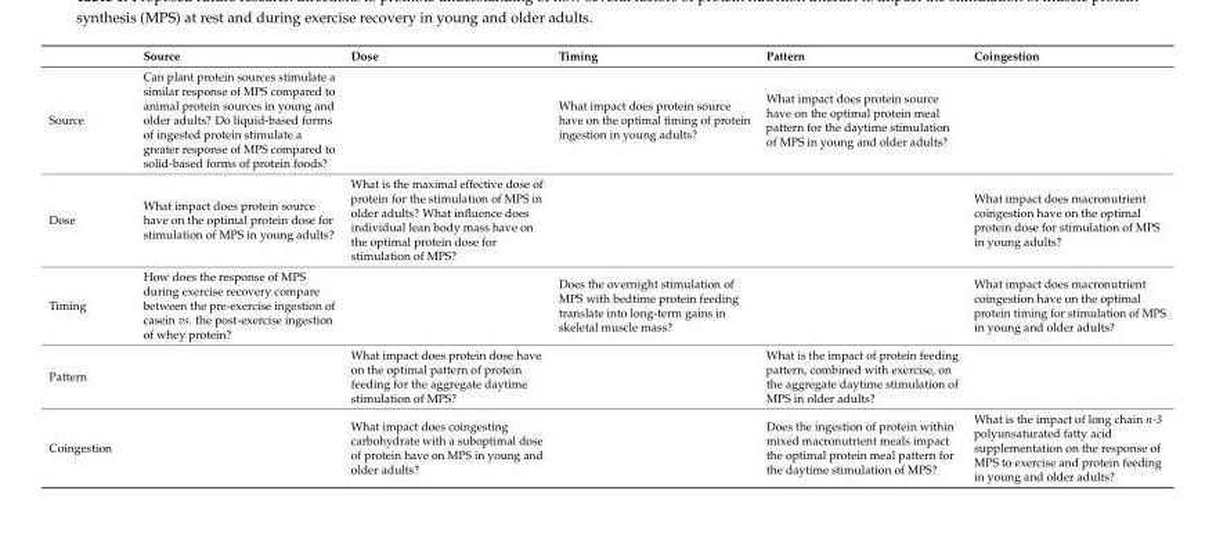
<table><thead><tr><td></td><td>Source</td><td>Dose</td><td>Timing</td><td>Pattern</td><td>Coingestion</td></tr></thead><tbody><tr><td>Source</td><td>Can plant protein sources stimulate a similar response of MPS compared to animal protein sources in young and older adults? Do liquid-based forms of ingested protein stimulate a greater response of MPS compared to solid-based forms of protein foods?</td><td></td><td>What impact does protein source have on the optimal timing of protein ingestion in young adults?</td><td>What impact does protein source have on the optimal protein meal pattern for the daytime stimulation of MPS in young and older adults?</td><td></td></tr><tr><td>Dose</td><td>What impact does protein source have on the optimal protein dose for stimulation of MPS in young adults?</td><td>What is the maximal effective dose of protein for the stimulation of MPS in older adults? What influence does individual lean body mass have on the optimal protein dose for stimulation of MPS?</td><td></td><td></td><td>What impact does macronutrient coingestion have on the optimal protein dose for stimulation of MPS in young adults?</td></tr><tr><td>Timing</td><td>How does the response of MPS during exercise recovery compare between the pre-exercise ingestion of casein vs. the post-exercise ingestion of whey protein?</td><td></td><td>Does the overnight stimulation of MPS with bedtime protein feeding translate into long-term gains in skeletal muscle mass?</td><td></td><td>What impact does macronutrient coingestion have on the optimal protein timing for stimulation of MPS in young and older adults?</td></tr><tr><td>Pattern</td><td></td><td>What impact does protein dose have on the optimal pattern of protein feeding for the aggregate daytime stimulation of MPS?</td><td></td><td>What is the impact of protein feeding pattern, combined with exercise, on the aggregate daytime stimulation of MPS in older adults?</td><td></td></tr><tr><td>Coingestion</td><td></td><td>What impact does coingesting carbohydrate with a suboptimal dose of protein have on MPS in young and older adults?</td><td></td><td>Does the ingestion of protein within mixed macronutrient meals impact the optimal protein meal pattern for the daytime stimulation of MPS?</td><td>What is the impact of long chain n-3 polyunsaturated fatty acid supplementation on the response of MPS to exercise and protein feeding in young and older adults?</td></tr></tbody></table>